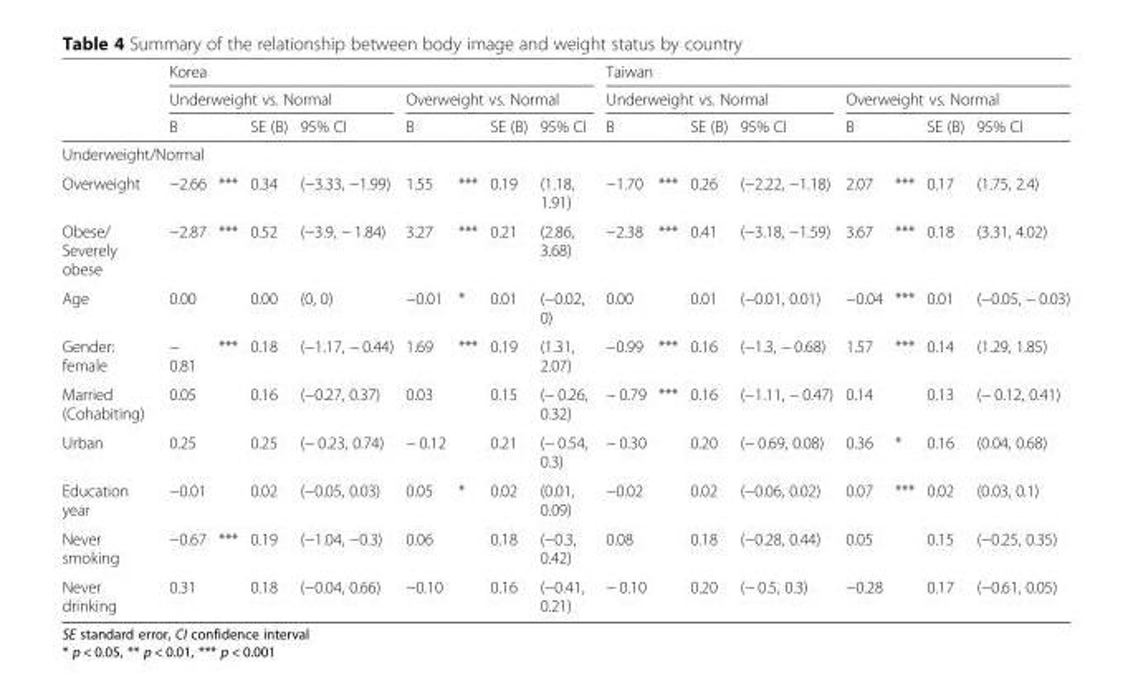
<table><thead><tr><td rowspan="3"></td><td colspan="8">Korea</td><td colspan="8">Taiwan</td></tr><tr><td colspan="4">Underweight vs. Normal</td><td colspan="4">Overweight vs. Normal</td><td colspan="4">Underweight vs. Normal</td><td colspan="4">Overweight vs. Normal</td></tr><tr><td>B</td><td></td><td>SE (B)</td><td>95% CI</td><td>B</td><td></td><td>SE (B)</td><td>95% CI</td><td>B</td><td></td><td>SE (B)</td><td>95% CI</td><td>B</td><td></td><td>SE (B)</td><td>95% CI</td></tr></thead><tbody><tr><td colspan="17">Underweight/Normal</td></tr><tr><td>Overweight</td><td>−2.66</td><td>***</td><td>0.34</td><td>(−3.33, −1.99)</td><td>1.55</td><td>***</td><td>0.19</td><td>(1.18, 1.91)</td><td>−1.70</td><td>***</td><td>0.26</td><td>(−2.22, −1.18)</td><td>2.07</td><td>***</td><td>0.17</td><td>(1.75, 2.4)</td></tr><tr><td>Obese/ Severely obese</td><td>−2.87</td><td>***</td><td>0.52</td><td>(−3.9, − 1.84)</td><td>3.27</td><td>***</td><td>0.21</td><td>(2.86, 3.68)</td><td>−2.38</td><td>***</td><td>0.41</td><td>(−3.18, −1.59)</td><td>3.67</td><td>***</td><td>0.18</td><td>(3.31, 4.02)</td></tr><tr><td>Age</td><td>0.00</td><td></td><td>0.00</td><td>(0, 0)</td><td>−0.01</td><td>*</td><td>0.01</td><td>(−0.02, 0)</td><td>0.00</td><td></td><td>0.01</td><td>(−0.01, 0.01)</td><td>−0.04</td><td>***</td><td>0.01</td><td>(−0.05, − 0.03)</td></tr><tr><td>Gender: female</td><td>− 0.81</td><td>***</td><td>0.18</td><td>(−1.17, − 0.44)</td><td>1.69</td><td>***</td><td>0.19</td><td>(1.31, 2.07)</td><td>−0.99</td><td>***</td><td>0.16</td><td>(−1.3, − 0.68)</td><td>1.57</td><td>***</td><td>0.14</td><td>(1.29, 1.85)</td></tr><tr><td>Married (Cohabiting)</td><td>0.05</td><td></td><td>0.16</td><td>(−0.27, 0.37)</td><td>0.03</td><td></td><td>0.15</td><td>(− 0.26, 0.32)</td><td>− 0.79</td><td>***</td><td>0.16</td><td>(−1.11, − 0.47)</td><td>0.14</td><td></td><td>0.13</td><td>(− 0.12, 0.41)</td></tr><tr><td>Urban</td><td>0.25</td><td></td><td>0.25</td><td>(− 0.23, 0.74)</td><td>− 0.12</td><td></td><td>0.21</td><td>(− 0.54, 0.3)</td><td>− 0.30</td><td></td><td>0.20</td><td>(− 0.69, 0.08)</td><td>0.36</td><td>*</td><td>0.16</td><td>(0.04, 0.68)</td></tr><tr><td>Education year</td><td>−0.01</td><td></td><td>0.02</td><td>(−0.05, 0.03)</td><td>0.05</td><td>*</td><td>0.02</td><td>(0.01, 0.09)</td><td>−0.02</td><td></td><td>0.02</td><td>(−0.06, 0.02)</td><td>0.07</td><td>***</td><td>0.02</td><td>(0.03, 0.1)</td></tr><tr><td>Never smoking</td><td>−0.67</td><td>***</td><td>0.19</td><td>(−1.04, −0.3)</td><td>0.06</td><td></td><td>0.18</td><td>(−0.3, 0.42)</td><td>0.08</td><td></td><td>0.18</td><td>(−0.28, 0.44)</td><td>0.05</td><td></td><td>0.15</td><td>(−0.25, 0.35)</td></tr><tr><td>Never drinking</td><td>0.31</td><td></td><td>0.18</td><td>(−0.04, 0.66)</td><td>−0.10</td><td></td><td>0.16</td><td>(−0.41, 0.21)</td><td>− 0.10</td><td></td><td>0.20</td><td>(− 0.5, 0.3)</td><td>−0.28</td><td></td><td>0.17</td><td>(−0.61, 0.05)</td></tr></tbody></table>